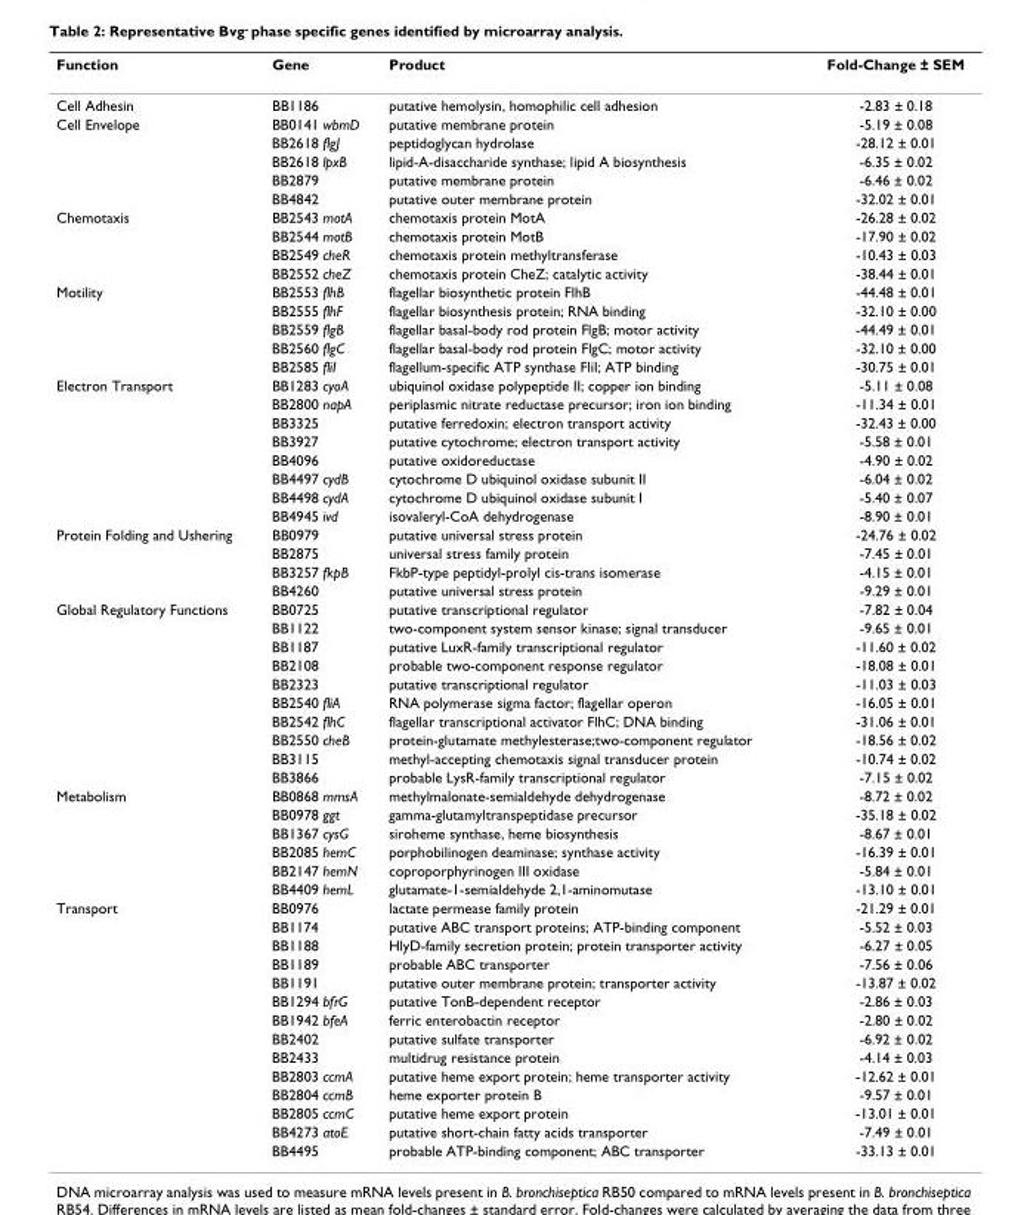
<table><thead><tr><td>Function</td><td>Gene</td><td>Product</td><td>Fold-Change ± SEM</td></tr></thead><tbody><tr><td>Cell Adhesin</td><td>BB1186</td><td>putative hemolysin, homophilic cell adhesion</td><td>-2.83 ± 0.18</td></tr><tr><td rowspan="5">Cell Envelope</td><td>BB0141 wbmD</td><td>putative membrane protein</td><td>-5.19 ± 0.08</td></tr><tr><td>BB2618 flgJ</td><td>peptidoglycan hydrolase</td><td>-28.12 ± 0.01</td></tr><tr><td>BB2618 lpxB</td><td>lipid-A-disaccharide synthase; lipid A biosynthesis</td><td>-6.35 ± 0.02</td></tr><tr><td>BB2879</td><td>putative membrane protein</td><td>-6.46 ± 0.02</td></tr><tr><td>BB4842</td><td>putative outer membrane protein</td><td>-32.02 ± 0.01</td></tr><tr><td rowspan="4">Chemotaxis</td><td>BB2543 motA</td><td>chemotaxis protein MotA</td><td>-26.28 ± 0.02</td></tr><tr><td>BB2544 motB</td><td>chemotaxis protein MotB</td><td>-17.90 ± 0.02</td></tr><tr><td>BB2549 cheR</td><td>chemotaxis protein methyltransferase</td><td>-10.43 ± 0.03</td></tr><tr><td>BB2552 cheZ</td><td>chemotaxis protein CheZ; catalytic activity</td><td>-38.44 ± 0.01</td></tr><tr><td rowspan="5">Motility</td><td>BB2553 flhB</td><td>flagellar biosynthetic protein FlhB</td><td>-44.48 ± 0.01</td></tr><tr><td>BB2555 flhF</td><td>flagellar biosynthesis protein; RNA binding</td><td>-32.10 ± 0.00</td></tr><tr><td>BB2559 flgB</td><td>flagellar basal-body rod protein FlgB; motor activity</td><td>-44.49 ± 0.01</td></tr><tr><td>BB2560 flgC</td><td>flagellar basal-body rod protein FlgC; motor activity</td><td>-32.10 ± 0.00</td></tr><tr><td>BB2585 fliI</td><td>flagellum-specific ATP synthase FliI; ATP binding</td><td>-30.75 ± 0.01</td></tr><tr><td rowspan="8">Electron Transport</td><td>BB1283 cyoA</td><td>ubiquinol oxidase polypeptide II; copper ion binding</td><td>-5.11 ± 0.08</td></tr><tr><td>BB2800 napA</td><td>periplasmic nitrate reductase precursor; iron ion binding</td><td>-11.34 ± 0.01</td></tr><tr><td>BB3325</td><td>putative ferredoxin; electron transport activity</td><td>-32.43 ± 0.00</td></tr><tr><td>BB3927</td><td>putative cytochrome; electron transport activity</td><td>-5.58 ± 0.01</td></tr><tr><td>BB4096</td><td>putative oxidoreductase</td><td>-4.90 ± 0.02</td></tr><tr><td>BB4497 cydB</td><td>cytochrome D ubiquinol oxidase subunit II</td><td>-6.04 ± 0.02</td></tr><tr><td>BB4498 cydA</td><td>cytochrome D ubiquinol oxidase subunit I</td><td>-5.40 ± 0.07</td></tr><tr><td>BB4945 ivd</td><td>isovaleryl-CoA dehydrogenase</td><td>-8.90 ± 0.01</td></tr><tr><td rowspan="4">Protein Folding and Ushering</td><td>BB0979</td><td>putative universal stress protein</td><td>-24.76 ± 0.02</td></tr><tr><td>BB2875</td><td>universal stress family protein</td><td>-7.45 ± 0.01</td></tr><tr><td>BB3257 fkpB</td><td>FkbP-type peptidyl-prolyl cis-trans isomerase</td><td>-4.15 ± 0.01</td></tr><tr><td>BB4260</td><td>putative universal stress protein</td><td>-9.29 ± 0.01</td></tr><tr><td rowspan="10">Global Regulatory Functions</td><td>BB0725</td><td>putative transcriptional regulator</td><td>-7.82 ± 0.04</td></tr><tr><td>BB1122</td><td>two-component system sensor kinase; signal transducer</td><td>-9.65 ± 0.01</td></tr><tr><td>BB1187</td><td>putative LuxR-family transcriptional regulator</td><td>-11.60 ± 0.02</td></tr><tr><td>BB2108</td><td>probable two-component response regulator</td><td>-18.08 ± 0.01</td></tr><tr><td>BB2323</td><td>putative transcriptional regulator</td><td>-11.03 ± 0.03</td></tr><tr><td>BB2540 fliA</td><td>RNA polymerase sigma factor; flagellar operon</td><td>-16.05 ± 0.01</td></tr><tr><td>BB2542 flhC</td><td>flagellar transcriptional activator FlhC; DNA binding</td><td>-31.06 ± 0.01</td></tr><tr><td>BB2550 cheB</td><td>protein-glutamate methylesterase;two-component regulator</td><td>-18.56 ± 0.02</td></tr><tr><td>BB3115</td><td>methyl-accepting chemotaxis signal transducer protein</td><td>-10.74 ± 0.02</td></tr><tr><td>BB3866</td><td>probable LysR-family transcriptional regulator</td><td>-7.15 ± 0.02</td></tr><tr><td rowspan="6">Metabolism</td><td>BB0868 mmsA</td><td>methylmalonate-semialdehyde dehydrogenase</td><td>-8.72 ± 0.02</td></tr><tr><td>BB0978 ggt</td><td>gamma-glutamyltranspeptidase precursor</td><td>-35.18 ± 0.02</td></tr><tr><td>BB1367 cysG</td><td>siroheme synthase, heme biosynthesis</td><td>-8.67 ± 0.01</td></tr><tr><td>BB2085 hemC</td><td>porphobilinogen deaminase; synthase activity</td><td>-16.39 ± 0.01</td></tr><tr><td>BB2147 hemN</td><td>coproporphyrinogen III oxidase</td><td>-5.84 ± 0.01</td></tr><tr><td>BB4409 hemL</td><td>glutamate-1-semialdehyde 2,1-aminomutase</td><td>-13.10 ± 0.01</td></tr><tr><td rowspan="14">Transport</td><td>BB0976</td><td>lactate permease family protein</td><td>-21.29 ± 0.01</td></tr><tr><td>BB1174</td><td>putative ABC transport proteins; ATP-binding component</td><td>-5.52 ± 0.03</td></tr><tr><td>BB1188</td><td>HlyD-family secretion protein; protein transporter activity</td><td>-6.27 ± 0.05</td></tr><tr><td>BB1189</td><td>probable ABC transporter</td><td>-7.56 ± 0.06</td></tr><tr><td>BB1191</td><td>putative outer membrane protein; transporter activity</td><td>-13.87 ± 0.02</td></tr><tr><td>BB1294 bfrG</td><td>putative TonB-dependent receptor</td><td>-2.86 ± 0.03</td></tr><tr><td>BB1942 bfeA</td><td>ferric enterobactin receptor</td><td>-2.80 ± 0.02</td></tr><tr><td>BB2402</td><td>putative sulfate transporter</td><td>-6.92 ± 0.02</td></tr><tr><td>BB2433</td><td>multidrug resistance protein</td><td>-4.14 ± 0.03</td></tr><tr><td>BB2803 ccmA</td><td>putative heme export protein; heme transporter activity</td><td>-12.62 ± 0.01</td></tr><tr><td>BB2804 ccmB</td><td>heme exporter protein B</td><td>-9.57 ± 0.01</td></tr><tr><td>BB2805 ccmC</td><td>putative heme export protein</td><td>-13.01 ± 0.01</td></tr><tr><td>BB4273 atoE</td><td>putative short-chain fatty acids transporter</td><td>-7.49 ± 0.01</td></tr><tr><td>BB4495</td><td>probable ATP-binding component; ABC transporter</td><td>-33.13 ± 0.01</td></tr></tbody></table>